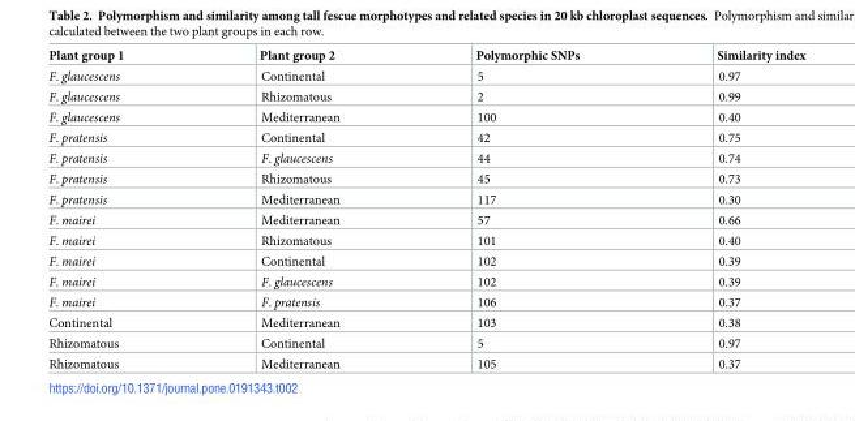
<table><thead><tr><td>Plant group 1</td><td>Plant group 2</td><td>Polymorphic SNPs</td><td>Similarity index</td></tr></thead><tbody><tr><td>F. glaucescens</td><td>Continental</td><td>5</td><td>0.97</td></tr><tr><td>F. glaucescens</td><td>Rhizomatous</td><td>2</td><td>0.99</td></tr><tr><td>F. glaucescens</td><td>Mediterranean</td><td>100</td><td>0.40</td></tr><tr><td>F. pratensis</td><td>Continental</td><td>42</td><td>0.75</td></tr><tr><td>F. pratensis</td><td>F. glaucescens</td><td>44</td><td>0.74</td></tr><tr><td>F. pratensis</td><td>Rhizomatous</td><td>45</td><td>0.73</td></tr><tr><td>F. pratensis</td><td>Mediterranean</td><td>117</td><td>0.30</td></tr><tr><td>F. mairei</td><td>Mediterranean</td><td>57</td><td>0.66</td></tr><tr><td>F. mairei</td><td>Rhizomatous</td><td>101</td><td>0.40</td></tr><tr><td>F. mairei</td><td>Continental</td><td>102</td><td>0.39</td></tr><tr><td>F. mairei</td><td>F. glaucescens</td><td>102</td><td>0.39</td></tr><tr><td>F. mairei</td><td>F. pratensis</td><td>106</td><td>0.37</td></tr><tr><td>Continental</td><td>Mediterranean</td><td>103</td><td>0.38</td></tr><tr><td>Rhizomatous</td><td>Continental</td><td>5</td><td>0.97</td></tr><tr><td>Rhizomatous</td><td>Mediterranean</td><td>105</td><td>0.37</td></tr></tbody></table>